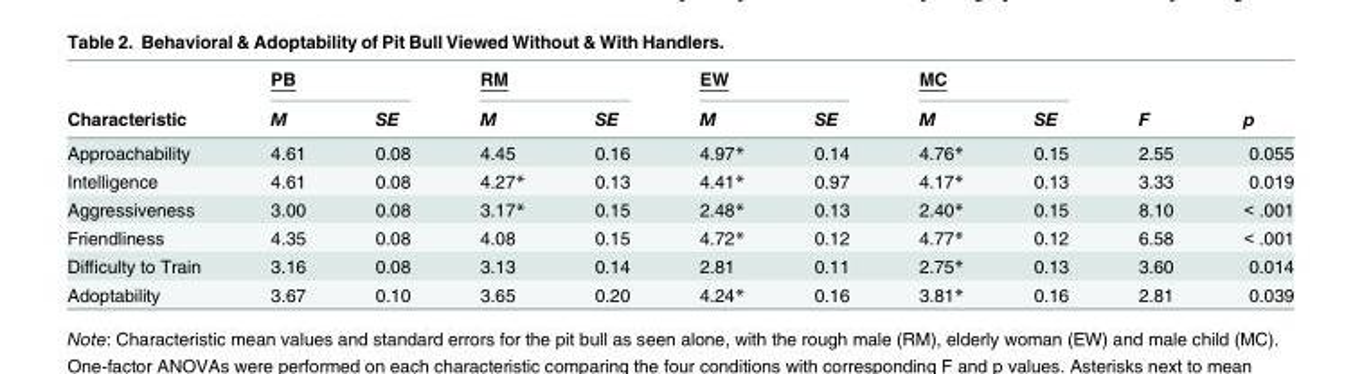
<table><thead><tr><td rowspan="2">Characteristic</td><td colspan="2">PB</td><td colspan="2">RM</td><td colspan="2">EW</td><td colspan="2">MC</td><td rowspan="2">F</td><td rowspan="2">p</td></tr><tr><td>M</td><td>SE</td><td>M</td><td>SE</td><td>M</td><td>SE</td><td>M</td><td>SE</td></tr></thead><tbody><tr><td>Approachability</td><td>4.61</td><td>0.08</td><td>4.45</td><td>0.16</td><td>4.97*</td><td>0.14</td><td>4.76*</td><td>0.15</td><td>2.55</td><td>0.055</td></tr><tr><td>Intelligence</td><td>4.61</td><td>0.08</td><td>4.27*</td><td>0.13</td><td>4.41*</td><td>0.97</td><td>4.17*</td><td>0.13</td><td>3.33</td><td>0.019</td></tr><tr><td>Aggressiveness</td><td>3.00</td><td>0.08</td><td>3.17*</td><td>0.15</td><td>2.48*</td><td>0.13</td><td>2.40*</td><td>0.15</td><td>8.10</td><td>&lt; .001</td></tr><tr><td>Friendliness</td><td>4.35</td><td>0.08</td><td>4.08</td><td>0.15</td><td>4.72*</td><td>0.12</td><td>4.77*</td><td>0.12</td><td>6.58</td><td>&lt; .001</td></tr><tr><td>Difficulty to Train</td><td>3.16</td><td>0.08</td><td>3.13</td><td>0.14</td><td>2.81</td><td>0.11</td><td>2.75*</td><td>0.13</td><td>3.60</td><td>0.014</td></tr><tr><td>Adoptability</td><td>3.67</td><td>0.10</td><td>3.65</td><td>0.20</td><td>4.24*</td><td>0.16</td><td>3.81*</td><td>0.16</td><td>2.81</td><td>0.039</td></tr></tbody></table>